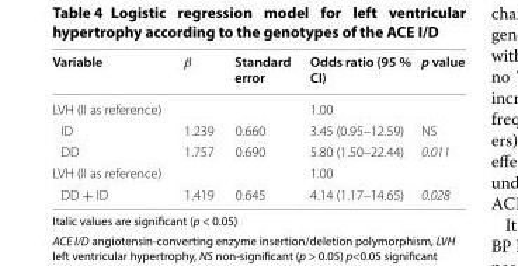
<table><thead><tr><td>Variable</td><td>β</td><td>Standard error</td><td>Odds ratio (95 % CI)</td><td>p value</td></tr></thead><tbody><tr><td>LVH (II as reference)</td><td></td><td></td><td>1.00</td><td></td></tr><tr><td>ID</td><td>1.239</td><td>0.660</td><td>3.45 (0.95–12.59)</td><td>NS</td></tr><tr><td>DD</td><td>1.757</td><td>0.690</td><td>5.80 (1.50–22.44)</td><td>0.011</td></tr><tr><td>LVH (II as reference)</td><td></td><td></td><td>1.00</td><td></td></tr><tr><td>DD + ID</td><td>1.419</td><td>0.645</td><td>4.14 (1.17–14.65)</td><td>0.028</td></tr></tbody></table>